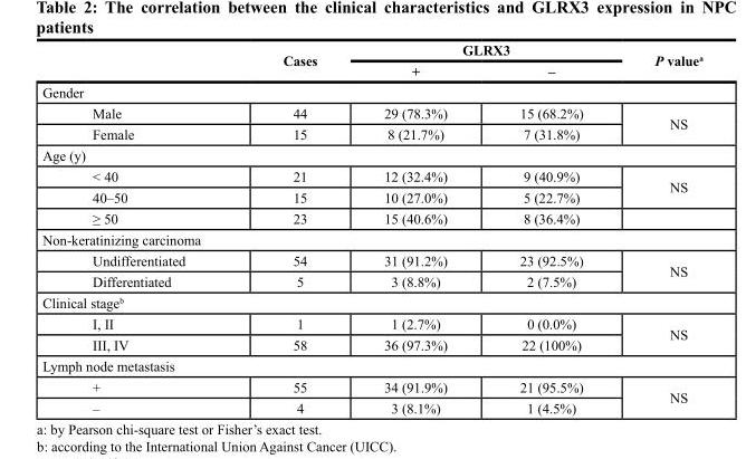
<table><thead><tr><td rowspan="2"></td><td rowspan="2">cases</td><td colspan="2">GlrX3</td><td rowspan="2">P value<sup>a</sup></td></tr><tr><td>+</td><td>–</td></tr></thead><tbody><tr><td colspan="5">Gender</td></tr><tr><td>Male</td><td>44</td><td>29 (78.3%)</td><td>15 (68.2%)</td><td rowspan="2">NS</td></tr><tr><td>Female</td><td>15</td><td>8 (21.7%)</td><td>7 (31.8%)</td></tr><tr><td colspan="5">Age (y)</td></tr><tr><td>&lt; 40</td><td>21</td><td>12 (32.4%)</td><td>9 (40.9%)</td><td rowspan="2">NS</td></tr><tr><td>40–50</td><td>15</td><td>10 (27.0%)</td><td>5 (22.7%)</td></tr><tr><td>≥ 50</td><td>23</td><td>15 (40.6%)</td><td>8 (36.4%)</td><td></td></tr><tr><td colspan="5">Non-keratinizing carcinoma</td></tr><tr><td>Undifferentiated</td><td>54</td><td>31 (91.2%)</td><td>23 (92.5%)</td><td rowspan="2">NS</td></tr><tr><td>Differentiated</td><td>5</td><td>3 (8.8%)</td><td>2 (7.5%)</td></tr><tr><td colspan="5">Clinical stage<sup>b</sup></td></tr><tr><td>I, II</td><td>1</td><td>1 (2.7%)</td><td>0 (0.0%)</td><td rowspan="2">NS</td></tr><tr><td>III, IV</td><td>58</td><td>36 (97.3%)</td><td>22 (100%)</td></tr><tr><td colspan="5">Lymph node metastasis</td></tr><tr><td>+</td><td>55</td><td>34 (91.9%)</td><td>21 (95.5%)</td><td rowspan="2">NS</td></tr><tr><td>–</td><td>4</td><td>3 (8.1%)</td><td>1 (4.5%)</td></tr></tbody></table>